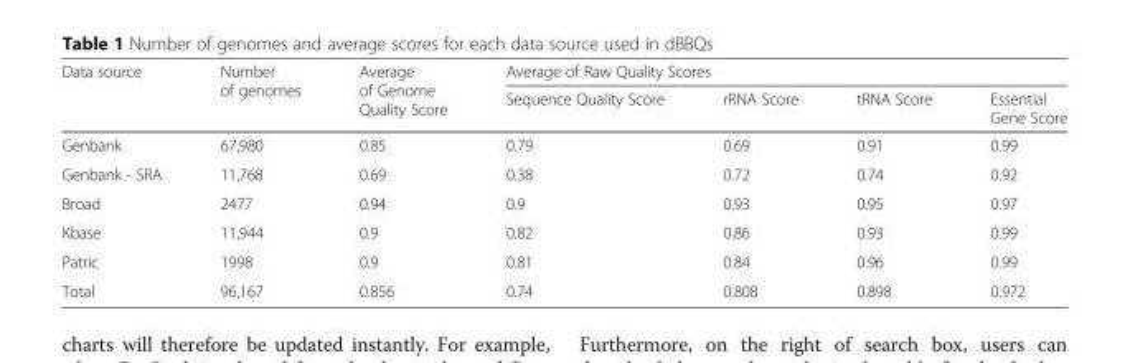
<table><thead><tr><td rowspan="2">Data source</td><td rowspan="2">Number of genomes</td><td rowspan="2">Average of Genome Quality Score</td><td colspan="4">Average of Raw Quality Scores</td></tr><tr><td>Sequence Quality Score</td><td>rRNA Score</td><td>tRNA Score</td><td>Essential Gene Score</td></tr></thead><tbody><tr><td>Genbank</td><td>67,980</td><td>0.85</td><td>0.79</td><td>0.69</td><td>0.91</td><td>0.99</td></tr><tr><td>Genbank - SRA</td><td>11,768</td><td>0.69</td><td>0.38</td><td>0.72</td><td>0.74</td><td>0.92</td></tr><tr><td>Broad</td><td>2477</td><td>0.94</td><td>0.9</td><td>0.93</td><td>0.95</td><td>0.97</td></tr><tr><td>Kbase</td><td>11,944</td><td>0.9</td><td>0.82</td><td>0.86</td><td>0.93</td><td>0.99</td></tr><tr><td>Patric</td><td>1998</td><td>0.9</td><td>0.81</td><td>0.84</td><td>0.96</td><td>0.99</td></tr><tr><td>Total</td><td>96,167</td><td>0.856</td><td>0.74</td><td>0.808</td><td>0.898</td><td>0.972</td></tr></tbody></table>